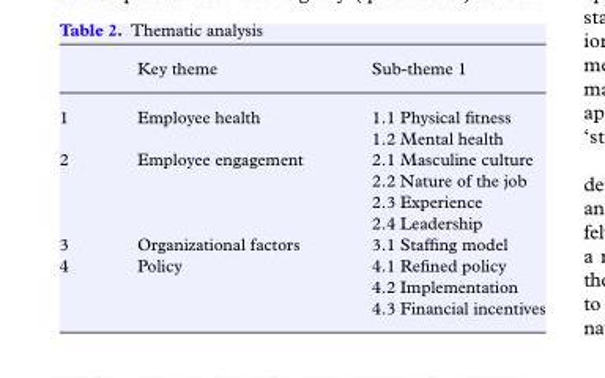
<table><thead><tr><td></td><td>Key theme</td><td>Sub-theme 1</td></tr></thead><tbody><tr><td rowspan="2">1</td><td>Employee health</td><td>1.1 Physical fitness</td></tr><tr><td></td><td>1.2 Mental health</td></tr><tr><td rowspan="4">2</td><td>Employee engagement</td><td>2.1 Masculine culture</td></tr><tr><td></td><td>2.2 Nature of the job</td></tr><tr><td></td><td>2.3 Experience</td></tr><tr><td></td><td>2.4 Leadership</td></tr><tr><td>3</td><td>Organizational factors</td><td>3.1 Staffing model</td></tr><tr><td rowspan="3">4</td><td>Policy</td><td>4.1 Refined policy</td></tr><tr><td></td><td>4.2 Implementation</td></tr><tr><td></td><td>4.3 Financial incentives</td></tr></tbody></table>